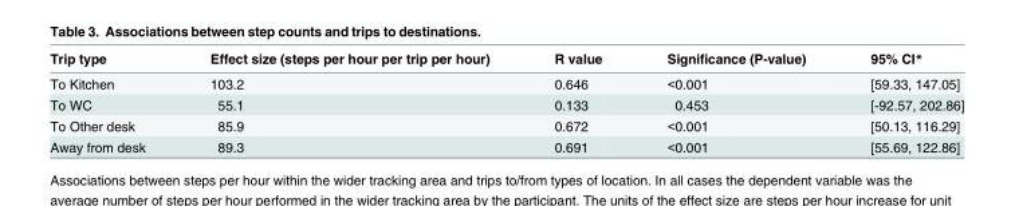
<table><thead><tr><td>Trip type</td><td>Effect size (steps per hour per trip per hour)</td><td>R value</td><td>Significance (P-value)</td><td>95% CI*</td></tr></thead><tbody><tr><td>To Kitchen</td><td>103.2</td><td>0.646</td><td>&lt;0.001</td><td>[59.33, 147.05]</td></tr><tr><td>To WC</td><td>55.1</td><td>0.133</td><td>0.453</td><td>[-92.57, 202.86]</td></tr><tr><td>To Other desk</td><td>85.9</td><td>0.672</td><td>&lt;0.001</td><td>[50.13, 116.29]</td></tr><tr><td>Away from desk</td><td>89.3</td><td>0.691</td><td>&lt;0.001</td><td>[55.69, 122.86]</td></tr></tbody></table>